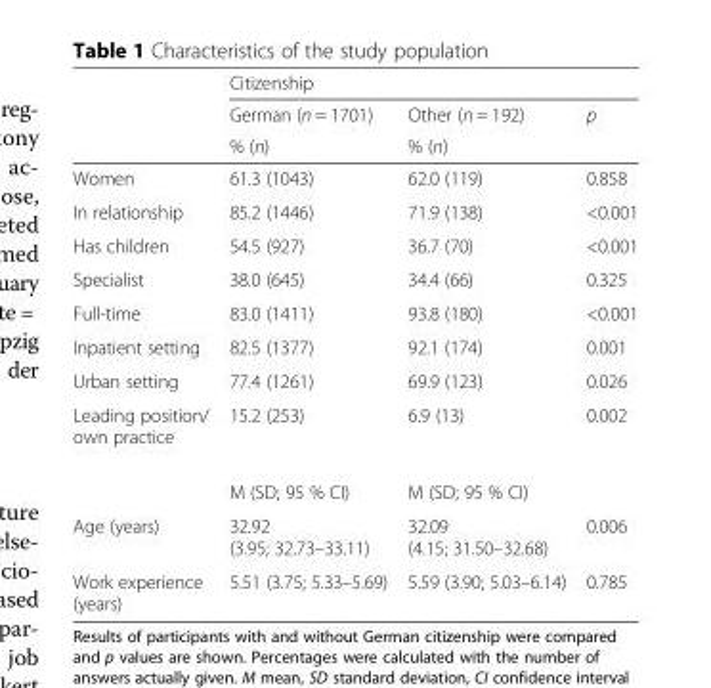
<table><thead><tr><td rowspan="3"></td><td colspan="3">Citizenship</td></tr><tr><td rowspan="2">German (n = 1701) % (n)</td><td rowspan="2">Other (n = 192) % (n)</td><td rowspan="2">p</td></tr><tr></tr></thead><tbody><tr><td>Women</td><td>61.3 (1043)</td><td>62.0 (119)</td><td>0.858</td></tr><tr><td>In relationship</td><td>85.2 (1446)</td><td>71.9 (138)</td><td>&lt;0.001</td></tr><tr><td>Has children</td><td>54.5 (927)</td><td>36.7 (70)</td><td>&lt;0.001</td></tr><tr><td>Specialist</td><td>38.0 (645)</td><td>34.4 (66)</td><td>0.325</td></tr><tr><td>Full-time</td><td>83.0 (1411)</td><td>93.8 (180)</td><td>&lt;0.001</td></tr><tr><td>Inpatient setting</td><td>82.5 (1377)</td><td>92.1 (174)</td><td>0.001</td></tr><tr><td>Urban setting</td><td>77.4 (1261)</td><td>69.9 (123)</td><td>0.026</td></tr><tr><td rowspan="2">Leading position/ own practice</td><td>15.2 (253)</td><td>6.9 (13)</td><td>0.002</td></tr><tr><td>M (SD; 95 % CI)</td><td>M (SD; 95 % CI)</td><td></td></tr><tr><td>Age (years)</td><td>32.92 (3.95; 32.73–33.11)</td><td>32.09 (4.15; 31.50–32.68)</td><td>0.006</td></tr><tr><td>Work experience (years)</td><td>5.51 (3.75; 5.33–5.69)</td><td>5.59 (3.90; 5.03–6.14)</td><td>0.785</td></tr></tbody></table>